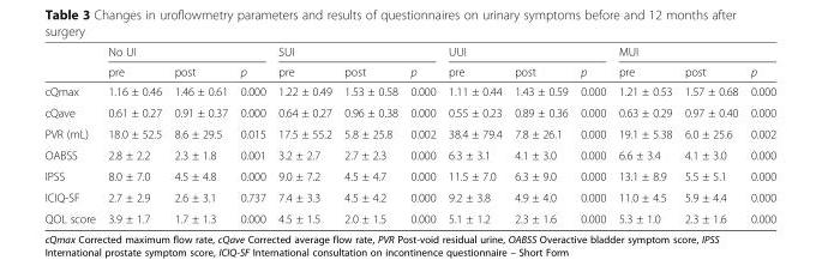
<table><thead><tr><td rowspan="2"></td><td colspan="3">No UI</td><td colspan="3">SUI</td><td colspan="3">UUI</td><td colspan="3">MUI</td></tr><tr><td>pre</td><td>post</td><td>p</td><td>pre</td><td>post</td><td>p</td><td>pre</td><td>post</td><td>p</td><td>pre</td><td>post</td><td>p</td></tr></thead><tbody><tr><td>cQmax</td><td>1.16 ± 0.46</td><td>1.46 ± 0.61</td><td>0.000</td><td>1.22 ± 0.49</td><td>1.53 ± 0.58</td><td>0.000</td><td>1.11 ± 0.44</td><td>1.43 ± 0.59</td><td>0.000</td><td>1.21 ± 0.53</td><td>1.57 ± 0.68</td><td>0.000</td></tr><tr><td>cQave</td><td>0.61 ± 0.27</td><td>0.91 ± 0.37</td><td>0.000</td><td>0.64 ± 0.27</td><td>0.96 ± 0.38</td><td>0.000</td><td>0.55 ± 0.23</td><td>0.89 ± 0.36</td><td>0.000</td><td>0.63 ± 0.29</td><td>0.97 ± 0.40</td><td>0.000</td></tr><tr><td>PVR (mL)</td><td>18.0 ± 52.5</td><td>8.6 ± 29.5</td><td>0.015</td><td>17.5 ± 55.2</td><td>5.8 ± 25.8</td><td>0.002</td><td>38.4 ± 79.4</td><td>7.8 ± 26.1</td><td>0.000</td><td>19.1 ± 5.38</td><td>6.0 ± 25.6</td><td>0.002</td></tr><tr><td>OABSS</td><td>2.8 ± 2.2</td><td>2.3 ± 1.8</td><td>0.001</td><td>3.2 ± 2.7</td><td>2.7 ± 2.3</td><td>0.000</td><td>6.3 ± 3.1</td><td>4.1 ± 3.0</td><td>0.000</td><td>6.6 ± 3.4</td><td>4.1 ± 3.0</td><td>0.000</td></tr><tr><td>IPSS</td><td>8.0 ± 7.0</td><td>4.5 ± 4.8</td><td>0.000</td><td>9.0 ± 7.2</td><td>4.5 ± 4.7</td><td>0.000</td><td>11.5 ± 7.0</td><td>6.3 ± 9.0</td><td>0.000</td><td>13.1 ± 8.9</td><td>5.5 ± 5.1</td><td>0.000</td></tr><tr><td>ICIQ-SF</td><td>2.7 ± 2.9</td><td>2.6 ± 3.1</td><td>0.737</td><td>7.4 ± 3.3</td><td>4.5 ± 4.2</td><td>0.000</td><td>9.2 ± 3.8</td><td>4.9 ± 4.0</td><td>0.000</td><td>11.0 ± 4.5</td><td>5.9 ± 4.4</td><td>0.000</td></tr><tr><td>QOL score</td><td>3.9 ± 1.7</td><td>1.7 ± 1.3</td><td>0.000</td><td>4.5 ± 1.5</td><td>2.0 ± 1.5</td><td>0.000</td><td>5.1 ± 1.2</td><td>2.3 ± 1.6</td><td>0.000</td><td>5.3 ± 1.0</td><td>2.3 ± 1.6</td><td>0.000</td></tr></tbody></table>